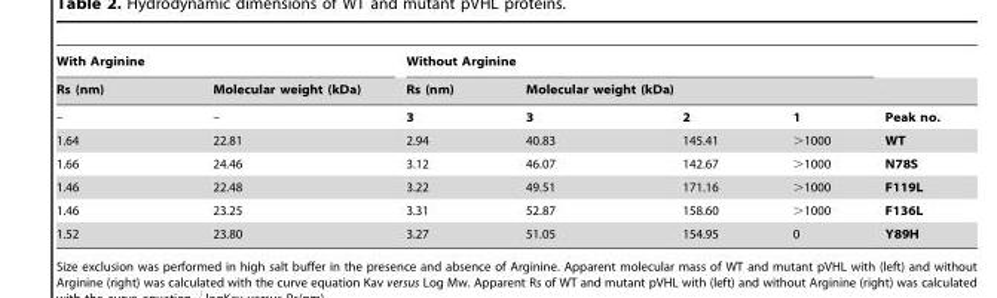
<table><thead><tr><td colspan="2">With Arginine</td><td colspan="4">Without Arginine</td><td rowspan="3">Peak no.</td></tr><tr><td rowspan="2">Rs (nm) –</td><td rowspan="2">Molecular weight (kDa) –</td><td rowspan="2">Rs (nm) 3</td><td colspan="3">Molecular weight (kDa)</td></tr><tr><td>3</td><td>2</td><td>1</td></tr></thead><tbody><tr><td>1.64</td><td>22.81</td><td>2.94</td><td>40.83</td><td>145.41</td><td>&gt;1000</td><td>WT</td></tr><tr><td>1.66</td><td>24.46</td><td>3.12</td><td>46.07</td><td>142.67</td><td>&gt;1000</td><td>N78S</td></tr><tr><td>1.46</td><td>22.48</td><td>3.22</td><td>49.51</td><td>171.16</td><td>&gt;1000</td><td>F119L</td></tr><tr><td>1.46</td><td>23.25</td><td>3.31</td><td>52.87</td><td>158.60</td><td>&gt;1000</td><td>F136L</td></tr><tr><td>1.52</td><td>23.80</td><td>3.27</td><td>51.05</td><td>154.95</td><td>0</td><td>Y89H</td></tr></tbody></table>